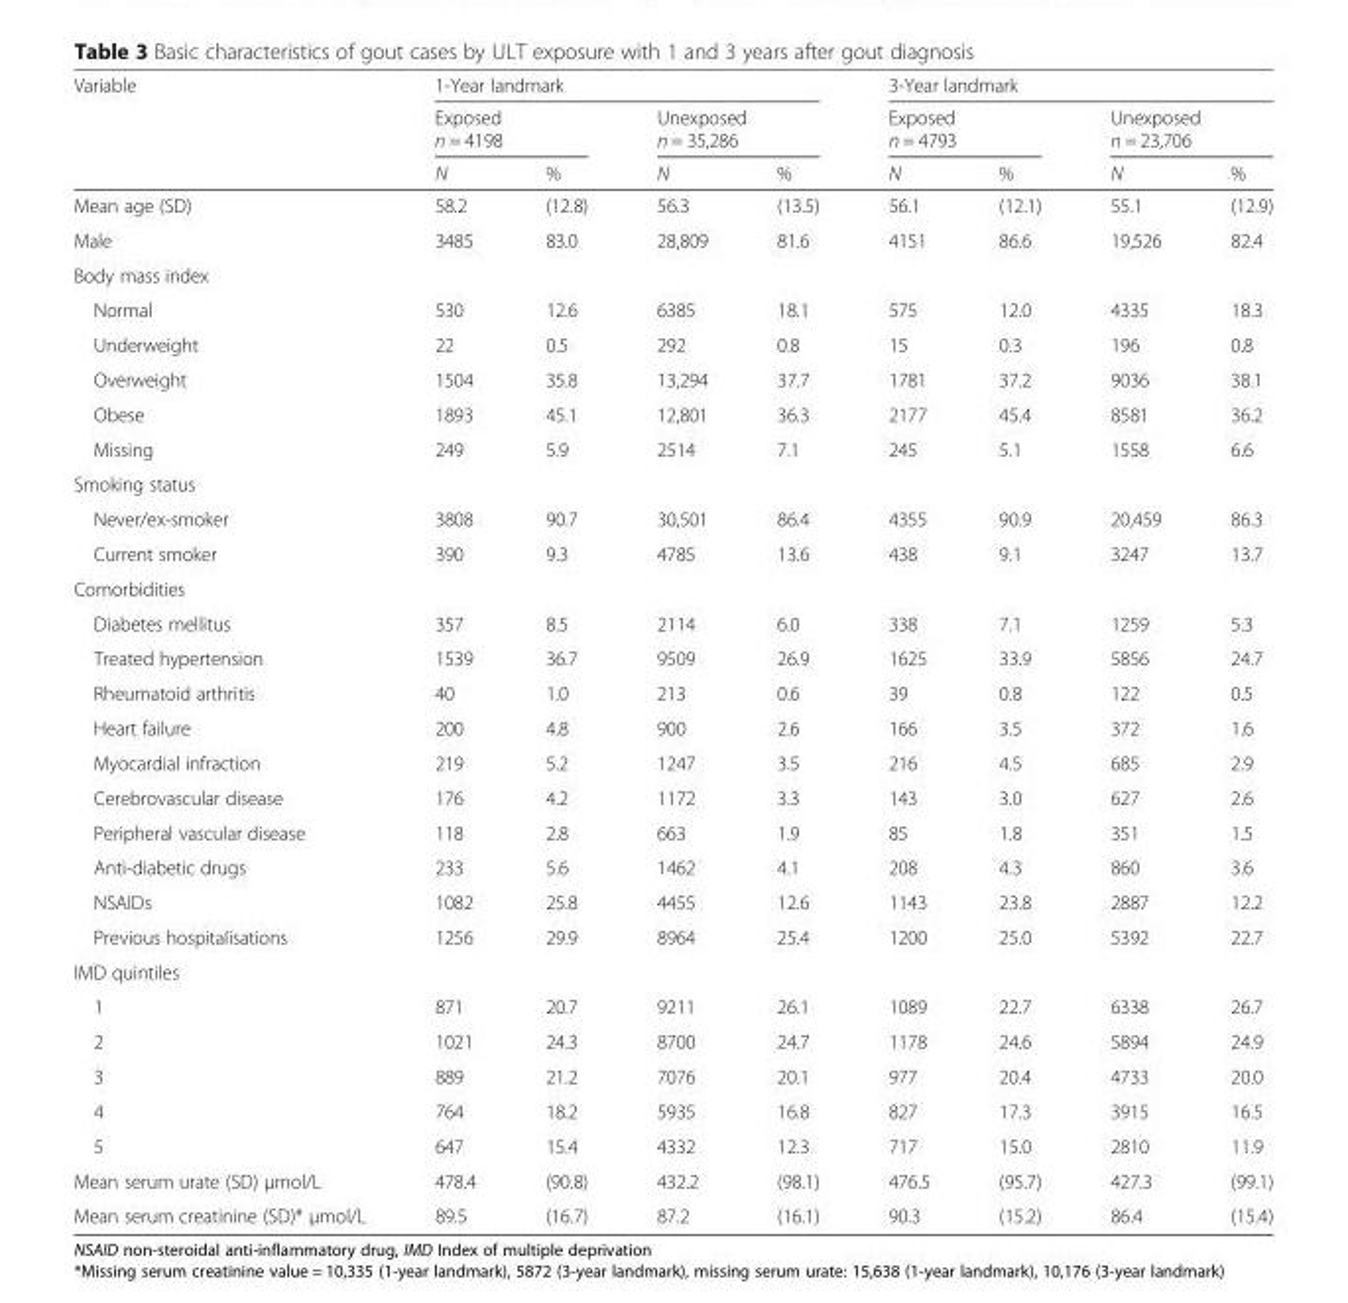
<table><thead><tr><td rowspan="3">Variable</td><td colspan="4">1-Year landmark</td><td colspan="4">3-Year landmark</td></tr><tr><td colspan="2">Exposed n = 4198</td><td colspan="2">Unexposed n = 35,286</td><td colspan="2">Exposed n = 4793</td><td colspan="2">Unexposed n = 23,706</td></tr><tr><td>N</td><td>%</td><td>N</td><td>%</td><td>N</td><td>%</td><td>N</td><td>%</td></tr></thead><tbody><tr><td>Mean age (SD)</td><td>58.2</td><td>(12.8)</td><td>56.3</td><td>(13.5)</td><td>56.1</td><td>(12.1)</td><td>55.1</td><td>(12.9)</td></tr><tr><td>Male</td><td>3485</td><td>83.0</td><td>28,809</td><td>81.6</td><td>4151</td><td>86.6</td><td>19,526</td><td>82.4</td></tr><tr><td colspan="9">Body mass index</td></tr><tr><td>Normal</td><td>530</td><td>12.6</td><td>6385</td><td>18.1</td><td>575</td><td>12.0</td><td>4335</td><td>18.3</td></tr><tr><td>Underweight</td><td>22</td><td>0.5</td><td>292</td><td>0.8</td><td>15</td><td>0.3</td><td>196</td><td>0.8</td></tr><tr><td>Overweight</td><td>1504</td><td>35.8</td><td>13,294</td><td>37.7</td><td>1781</td><td>37.2</td><td>9036</td><td>38.1</td></tr><tr><td>Obese</td><td>1893</td><td>45.1</td><td>12,801</td><td>36.3</td><td>2177</td><td>45.4</td><td>8581</td><td>36.2</td></tr><tr><td>Missing</td><td>249</td><td>5.9</td><td>2514</td><td>7.1</td><td>245</td><td>5.1</td><td>1558</td><td>6.6</td></tr><tr><td colspan="9">Smoking status</td></tr><tr><td>Never/ex-smoker</td><td>3808</td><td>90.7</td><td>30,501</td><td>86.4</td><td>4355</td><td>90.9</td><td>20,459</td><td>86.3</td></tr><tr><td>Current smoker</td><td>390</td><td>9.3</td><td>4785</td><td>13.6</td><td>438</td><td>9.1</td><td>3247</td><td>13.7</td></tr><tr><td colspan="9">Comorbidities</td></tr><tr><td>Diabetes mellitus</td><td>357</td><td>8.5</td><td>2114</td><td>6.0</td><td>338</td><td>7.1</td><td>1259</td><td>5.3</td></tr><tr><td>Treated hypertension</td><td>1539</td><td>36.7</td><td>9509</td><td>26.9</td><td>1625</td><td>33.9</td><td>5856</td><td>24.7</td></tr><tr><td>Rheumatoid arthritis</td><td>40</td><td>1.0</td><td>213</td><td>0.6</td><td>39</td><td>0.8</td><td>122</td><td>0.5</td></tr><tr><td>Heart failure</td><td>200</td><td>4.8</td><td>900</td><td>2.6</td><td>166</td><td>3.5</td><td>372</td><td>1.6</td></tr><tr><td>Myocardial infraction</td><td>219</td><td>5.2</td><td>1247</td><td>3.5</td><td>216</td><td>4.5</td><td>685</td><td>2.9</td></tr><tr><td>Cerebrovascular disease</td><td>176</td><td>4.2</td><td>1172</td><td>3.3</td><td>143</td><td>3.0</td><td>627</td><td>2.6</td></tr><tr><td>Peripheral vascular disease</td><td>118</td><td>2.8</td><td>663</td><td>1.9</td><td>85</td><td>1.8</td><td>351</td><td>1.5</td></tr><tr><td>Anti-diabetic drugs</td><td>233</td><td>5.6</td><td>1462</td><td>4.1</td><td>208</td><td>4.3</td><td>860</td><td>3.6</td></tr><tr><td>NSAIDs</td><td>1082</td><td>25.8</td><td>4455</td><td>12.6</td><td>1143</td><td>23.8</td><td>2887</td><td>12.2</td></tr><tr><td>Previous hospitalisations</td><td>1256</td><td>29.9</td><td>8964</td><td>25.4</td><td>1200</td><td>25.0</td><td>5392</td><td>22.7</td></tr><tr><td colspan="9">IMD quintiles</td></tr><tr><td>1</td><td>871</td><td>20.7</td><td>9211</td><td>26.1</td><td>1089</td><td>22.7</td><td>6338</td><td>26.7</td></tr><tr><td>2</td><td>1021</td><td>24.3</td><td>8700</td><td>24.7</td><td>1178</td><td>24.6</td><td>5894</td><td>24.9</td></tr><tr><td>3</td><td>889</td><td>21.2</td><td>7076</td><td>20.1</td><td>977</td><td>20.4</td><td>4733</td><td>20.0</td></tr><tr><td>4</td><td>764</td><td>18.2</td><td>5935</td><td>16.8</td><td>827</td><td>17.3</td><td>3915</td><td>16.5</td></tr><tr><td>5</td><td>647</td><td>15.4</td><td>4332</td><td>12.3</td><td>717</td><td>15.0</td><td>2810</td><td>11.9</td></tr><tr><td>Mean serum urate (SD) μmol/L</td><td>478.4</td><td>(90.8)</td><td>432.2</td><td>(98.1)</td><td>476.5</td><td>(95.7)</td><td>427.3</td><td>(99.1)</td></tr><tr><td>Mean serum creatinine (SD)* μmol/L</td><td>89.5</td><td>(16.7)</td><td>87.2</td><td>(16.1)</td><td>90.3</td><td>(15.2)</td><td>86.4</td><td>(15.4)</td></tr></tbody></table>